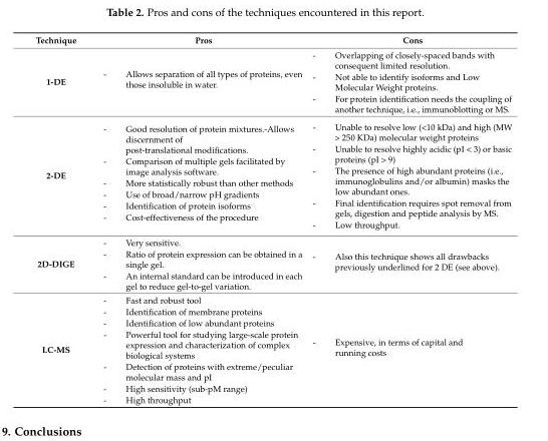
<table><thead><tr><td>Technique</td><td>Pros</td><td>Cons</td></tr></thead><tbody><tr><td>1-DE</td><td>- Allows separation of all types of proteins, even those insoluble in water.</td><td>- Overlapping of closely-spaced bands with consequent limited resolution. - Not able to identify isoforms and Low Molecular Weight proteins. - For protein identification needs the coupling of another technique, i.e., immunoblotting or MS.</td></tr><tr><td>2-DE</td><td>- Good resolution of protein mixtures.-Allows discernment of post-translational modifications. - Comparison of multiple gels facilitated by image analysis software. - More statistically robust than other methods - Use of broad/narrow pH gradients - Identification of protein isoforms - Cost-effectiveness of the procedure</td><td>- Unable to resolve low (&lt;10 kDa) and high (MW &gt; 250 KDa) molecular weight proteins - Unable to resolve highly acidic (pI &lt; 3) or basic proteins (pI &gt; 9) - The presence of high abundant proteins (i.e., immunoglobulins and/or albumin) masks the low abundant ones. - Final identification requires spot removal from gels, digestion and peptide analysis by MS. - Low throughput.</td></tr><tr><td>2D-DIGE</td><td>- Very sensitive. - Ratio of protein expression can be obtained in a single gel. - An internal standard can be introduced in each gel to reduce gel-to-gel variation.</td><td>- Also this technique shows all drawbacks previously underlined for 2 DE (see above).</td></tr><tr><td>LC-MS</td><td>- Fast and robust tool - Identification of membrane proteins - Identification of low abundant proteins - Powerful tool for studying large-scale protein expression and characterization of complex biological systems - Detection of proteins with extreme/peculiar molecular mass and pI - High sensitivity (sub-pM range) - High throughput</td><td>- Expensive, in terms of capital and running costs</td></tr></tbody></table>